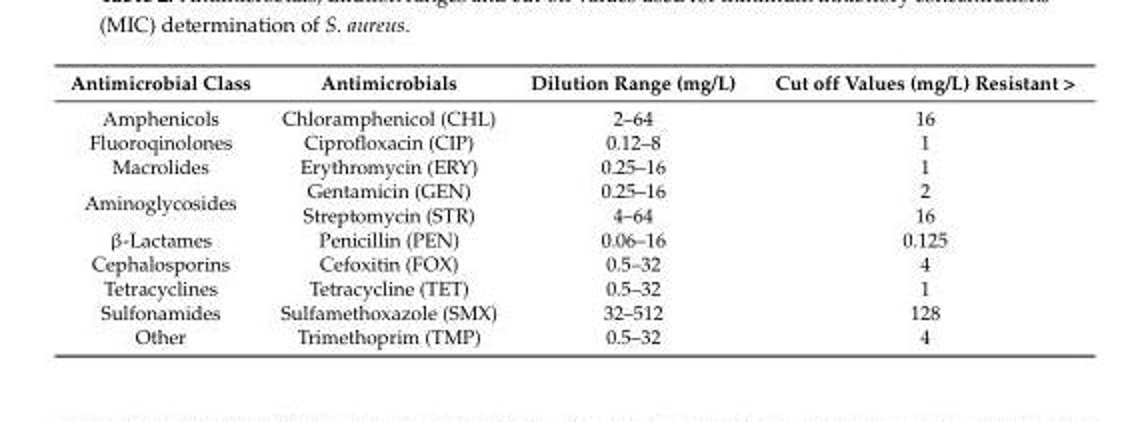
<table><thead><tr><td>Antimicrobial Class</td><td>Antimicrobials</td><td>Dilution Range (mg/L)</td><td>Cut off Values (mg/L) Resistant &gt;</td></tr></thead><tbody><tr><td>Amphenicols</td><td>Chloramphenicol (CHL)</td><td>2–64</td><td>16</td></tr><tr><td>Fluoroqinolones</td><td>Ciprofloxacin (CIP)</td><td>0.12–8</td><td>1</td></tr><tr><td>Macrolides</td><td>Erythromycin (ERY)</td><td>0.25–16</td><td>1</td></tr><tr><td rowspan="2">Aminoglycosides</td><td>Gentamicin (GEN)</td><td>0.25–16</td><td>2</td></tr><tr><td>Streptomycin (STR)</td><td>4–64</td><td>16</td></tr><tr><td>β-Lactames</td><td>Penicillin (PEN)</td><td>0.06–16</td><td>0.125</td></tr><tr><td>Cephalosporins</td><td>Cefoxitin (FOX)</td><td>0.5–32</td><td>4</td></tr><tr><td>Tetracyclines</td><td>Tetracycline (TET)</td><td>0.5–32</td><td>1</td></tr><tr><td>Sulfonamides</td><td>Sulfamethoxazole (SMX)</td><td>32–512</td><td>128</td></tr><tr><td>Other</td><td>Trimethoprim (TMP)</td><td>0.5–32</td><td>4</td></tr></tbody></table>